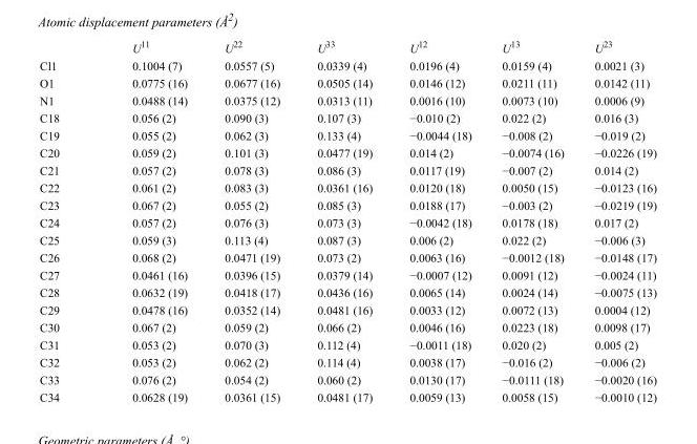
<table><thead><tr><td></td><td>U<sup>11</sup></td><td>U<sup>22</sup></td><td>U<sup>33</sup></td><td>U<sup>12</sup></td><td>U<sup>13</sup></td><td>U<sup>23</sup></td></tr></thead><tbody><tr><td>Cl1</td><td>0.1004 (7)</td><td>0.0557 (5)</td><td>0.0339 (4)</td><td>0.0196 (4)</td><td>0.0159 (4)</td><td>0.0021 (3)</td></tr><tr><td>O1</td><td>0.0775 (16)</td><td>0.0677 (16)</td><td>0.0505 (14)</td><td>0.0146 (12)</td><td>0.0211 (11)</td><td>0.0142 (11)</td></tr><tr><td>N1</td><td>0.0488 (14)</td><td>0.0375 (12)</td><td>0.0313 (11)</td><td>0.0016 (10)</td><td>0.0073 (10)</td><td>0.0006 (9)</td></tr><tr><td>C18</td><td>0.056 (2)</td><td>0.090 (3)</td><td>0.107 (3)</td><td>−0.010 (2)</td><td>0.022 (2)</td><td>0.016 (3)</td></tr><tr><td>C19</td><td>0.055 (2)</td><td>0.062 (3)</td><td>0.133 (4)</td><td>−0.0044 (18)</td><td>−0.008 (2)</td><td>−0.019 (2)</td></tr><tr><td>C20</td><td>0.059 (2)</td><td>0.101 (3)</td><td>0.0477 (19)</td><td>0.014 (2)</td><td>−0.0074 (16)</td><td>−0.0226 (19)</td></tr><tr><td>C21</td><td>0.057 (2)</td><td>0.078 (3)</td><td>0.086 (3)</td><td>0.0117 (19)</td><td>−0.007 (2)</td><td>0.014 (2)</td></tr><tr><td>C22</td><td>0.061 (2)</td><td>0.083 (3)</td><td>0.0361 (16)</td><td>0.0120 (18)</td><td>0.0050 (15)</td><td>−0.0123 (16)</td></tr><tr><td>C23</td><td>0.067 (2)</td><td>0.055 (2)</td><td>0.085 (3)</td><td>0.0188 (17)</td><td>−0.003 (2)</td><td>−0.0219 (19)</td></tr><tr><td>C24</td><td>0.057 (2)</td><td>0.076 (3)</td><td>0.073 (3)</td><td>−0.0042 (18)</td><td>0.0178 (18)</td><td>0.017 (2)</td></tr><tr><td>C25</td><td>0.059 (3)</td><td>0.113 (4)</td><td>0.087 (3)</td><td>0.006 (2)</td><td>0.022 (2)</td><td>−0.006 (3)</td></tr><tr><td>C26</td><td>0.068 (2)</td><td>0.0471 (19)</td><td>0.073 (2)</td><td>0.0063 (16)</td><td>−0.0012 (18)</td><td>−0.0148 (17)</td></tr><tr><td>C27</td><td>0.0461 (16)</td><td>0.0396 (15)</td><td>0.0379 (14)</td><td>−0.0007 (12)</td><td>0.0091 (12)</td><td>−0.0024 (11)</td></tr><tr><td>C28</td><td>0.0632 (19)</td><td>0.0418 (17)</td><td>0.0436 (16)</td><td>0.0065 (14)</td><td>0.0024 (14)</td><td>−0.0075 (13)</td></tr><tr><td>C29</td><td>0.0478 (16)</td><td>0.0352 (14)</td><td>0.0481 (16)</td><td>0.0033 (12)</td><td>0.0072 (13)</td><td>0.0004 (12)</td></tr><tr><td>C30</td><td>0.067 (2)</td><td>0.059 (2)</td><td>0.066 (2)</td><td>0.0046 (16)</td><td>0.0223 (18)</td><td>0.0098 (17)</td></tr><tr><td>C31</td><td>0.053 (2)</td><td>0.070 (3)</td><td>0.112 (4)</td><td>−0.0011 (18)</td><td>0.020 (2)</td><td>0.005 (2)</td></tr><tr><td>C32</td><td>0.053 (2)</td><td>0.062 (2)</td><td>0.114 (4)</td><td>0.0038 (17)</td><td>−0.016 (2)</td><td>−0.006 (2)</td></tr><tr><td>C33</td><td>0.076 (2)</td><td>0.054 (2)</td><td>0.060 (2)</td><td>0.0130 (17)</td><td>−0.0111 (18)</td><td>−0.0020 (16)</td></tr><tr><td>C34</td><td>0.0628 (19)</td><td>0.0361 (15)</td><td>0.0481 (17)</td><td>0.0059 (13)</td><td>0.0058 (15)</td><td>−0.0010 (12)</td></tr></tbody></table>